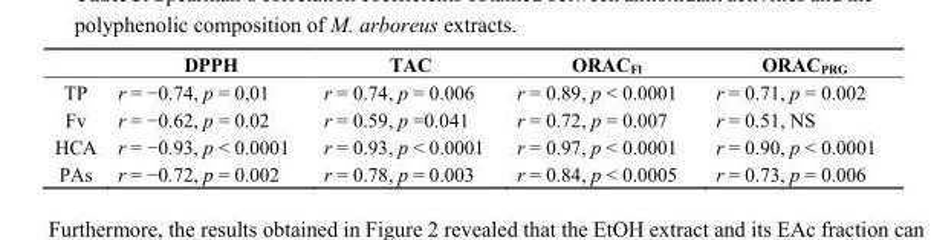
<table><thead><tr><td></td><td>DPPH</td><td>TAC</td><td>ORAC<sub>Fl</sub></td><td>ORAC<sub>PRG</sub></td></tr></thead><tbody><tr><td>TP</td><td>r = −0.74, p = 0,01</td><td>r = 0.74, p = 0.006</td><td>r = 0.89, p &lt; 0.0001</td><td>r = 0.71, p = 0.002</td></tr><tr><td>Fv</td><td>r = −0.62, p = 0.02</td><td>r = 0.59, p =0.041</td><td>r = 0.72, p = 0.007</td><td>r = 0.51, NS</td></tr><tr><td>HCA</td><td>r = −0.93, p &lt; 0.0001</td><td>r = 0.93, p &lt; 0.0001</td><td>r = 0.97, p &lt; 0.0001</td><td>r = 0.90, p &lt; 0.0001</td></tr><tr><td>PAs</td><td>r = −0.72, p = 0.002</td><td>r = 0.78, p = 0.003</td><td>r = 0.84, p &lt; 0.0005</td><td>r = 0.73, p = 0.006</td></tr></tbody></table>